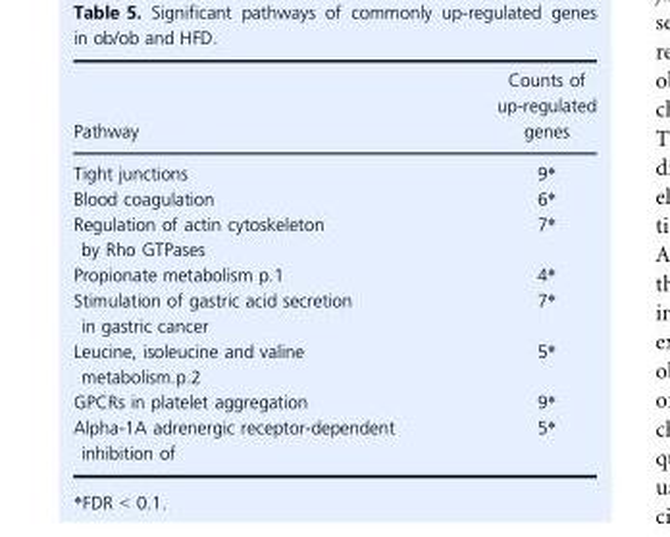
<table><thead><tr><td>Pathway</td><td>Counts of up-regulated genes</td></tr></thead><tbody><tr><td>Tight junctions</td><td>9*</td></tr><tr><td>Blood coagulation</td><td>6*</td></tr><tr><td>Regulation of actin cytoskeleton by Rho GTPases</td><td>7*</td></tr><tr><td>Propionate metabolism p.1</td><td>4*</td></tr><tr><td>Stimulation of gastric acid secretion in gastric cancer</td><td>7*</td></tr><tr><td>Leucine, isoleucine and valine metabolism.p.2</td><td>5*</td></tr><tr><td>GPCRs in platelet aggregation</td><td>9*</td></tr><tr><td>Alpha-1A adrenergic receptor-dependent inhibition of</td><td>5*</td></tr></tbody></table>